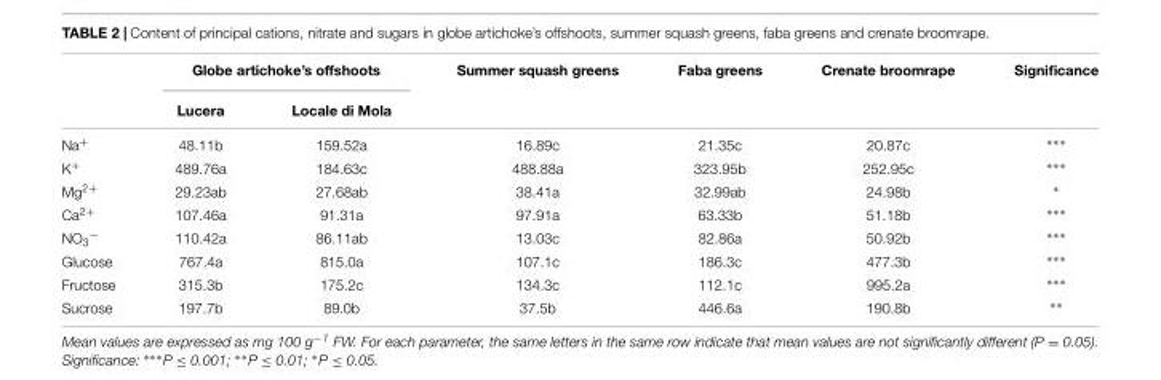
<table><thead><tr><td rowspan="2"></td><td colspan="2">Globe artichoke’s offshoots</td><td rowspan="2">Summer squash greens</td><td rowspan="2">Faba greens</td><td rowspan="2">Crenate broomrape</td><td rowspan="2">Significance</td></tr><tr><td>Lucera</td><td>Locale di Mola</td></tr></thead><tbody><tr><td>Na<sup>+</sup></td><td>48.11b</td><td>159.52a</td><td>16.89c</td><td>21.35c</td><td>20.87c</td><td>∗∗∗</td></tr><tr><td>K<sup>+</sup></td><td>489.76a</td><td>184.63c</td><td>488.88a</td><td>323.95b</td><td>252.95c</td><td>∗∗∗</td></tr><tr><td>Mg<sup>2+</sup></td><td>29.23ab</td><td>27.68ab</td><td>38.41a</td><td>32.99ab</td><td>24.98b</td><td>∗</td></tr><tr><td>Ca<sup>2+</sup></td><td>107.46a</td><td>91.31a</td><td>97.91a</td><td>63.33b</td><td>51.18b</td><td>∗∗∗</td></tr><tr><td>NO<sub>3</sub><sup>−</sup></td><td>110.42a</td><td>86.11ab</td><td>13.03c</td><td>82.86a</td><td>50.92b</td><td>∗∗∗</td></tr><tr><td>Glucose</td><td>767.4a</td><td>815.0a</td><td>107.1c</td><td>186.3c</td><td>477.3b</td><td>∗∗∗</td></tr><tr><td>Fructose</td><td>315.3b</td><td>175.2c</td><td>134.3c</td><td>112.1c</td><td>995.2a</td><td>∗∗∗</td></tr><tr><td>Sucrose</td><td>197.7b</td><td>89.0b</td><td>37.5b</td><td>446.6a</td><td>190.8b</td><td>∗∗</td></tr></tbody></table>